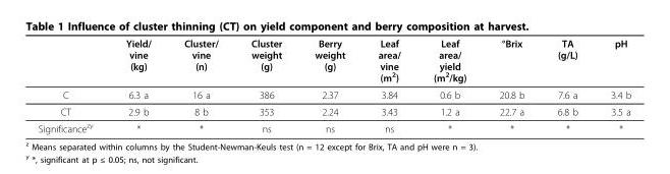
<table><thead><tr><td></td><td>Yield/ vine (kg)</td><td>Cluster/ vine (n)</td><td>Cluster weight (g)</td><td>Berry weight (g)</td><td>Leaf area/ vine (m<sup>2</sup>)</td><td>Leaf area/ yield (m<sup>2</sup>/kg)</td><td>°Brix</td><td>TA (g/L)</td><td>pH</td></tr></thead><tbody><tr><td>C</td><td>6.3 a</td><td>16 a</td><td>386</td><td>2.37</td><td>3.84</td><td>0.6 b</td><td>20.8 b</td><td>7.6 a</td><td>3.4 b</td></tr><tr><td>CT</td><td>2.9 b</td><td>8 b</td><td>353</td><td>2.24</td><td>3.43</td><td>1.2 a</td><td>22.7 a</td><td>6.8 b</td><td>3.5 a</td></tr><tr><td>Significance<sup>zy</sup></td><td>*</td><td>*</td><td>ns</td><td>ns</td><td>ns</td><td>*</td><td>*</td><td>*</td><td>*</td></tr></tbody></table>